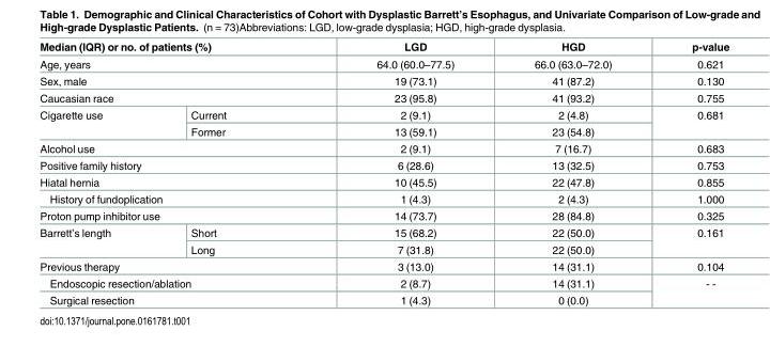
<table><thead><tr><td colspan="2">Median (IQR) or no. of patients (%)</td><td>LGD</td><td>HGD</td><td>p-value</td></tr></thead><tbody><tr><td colspan="2">Age, years</td><td>64.0 (60.0–77.5)</td><td>66.0 (63.0–72.0)</td><td>0.621</td></tr><tr><td colspan="2">Sex, male</td><td>19 (73.1)</td><td>41 (87.2)</td><td>0.130</td></tr><tr><td colspan="2">Caucasian race</td><td>23 (95.8)</td><td>41 (93.2)</td><td>0.755</td></tr><tr><td rowspan="2">Cigarette use</td><td>Current</td><td>2 (9.1)</td><td>2 (4.8)</td><td rowspan="2">0.681</td></tr><tr><td>Former</td><td>13 (59.1)</td><td>23 (54.8)</td></tr><tr><td colspan="2">Alcohol use</td><td>2 (9.1)</td><td>7 (16.7)</td><td>0.683</td></tr><tr><td colspan="2">Positive family history</td><td>6 (28.6)</td><td>13 (32.5)</td><td>0.753</td></tr><tr><td colspan="2">Hiatal hernia</td><td>10 (45.5)</td><td>22 (47.8)</td><td>0.855</td></tr><tr><td colspan="2">History of fundoplication</td><td>1 (4.3)</td><td>2 (4.3)</td><td>1.000</td></tr><tr><td colspan="2">Proton pump inhibitor use</td><td>14 (73.7)</td><td>28 (84.8)</td><td>0.325</td></tr><tr><td rowspan="2">Barrett’s length</td><td>Short</td><td>15 (68.2)</td><td>22 (50.0)</td><td rowspan="2">0.161</td></tr><tr><td>Long</td><td>7 (31.8)</td><td>22 (50.0)</td></tr><tr><td colspan="2">Previous therapy</td><td>3 (13.0)</td><td>14 (31.1)</td><td>0.104</td></tr><tr><td colspan="2">Endoscopic resection/ablation</td><td>2 (8.7)</td><td>14 (31.1)</td><td rowspan="2">- -</td></tr><tr><td colspan="2">Surgical resection</td><td>1 (4.3)</td><td>0 (0.0)</td></tr></tbody></table>